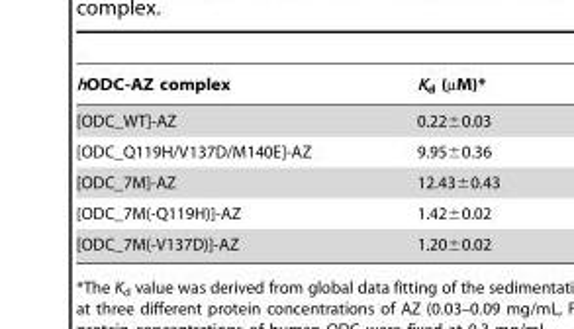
<table><thead><tr><td>hODC-AZ complex</td><td>K<sub>d</sub> (µM)*</td></tr></thead><tbody><tr><td>[ODC_WT]-AZ</td><td>0.22±0.03</td></tr><tr><td>[ODC_Q119H/V137D/M140E]-AZ</td><td>9.95±0.36</td></tr><tr><td>[ODC_7M]-AZ</td><td>12.43±0.43</td></tr><tr><td>[ODC_7M(-Q119H)]-AZ</td><td>1.42±0.02</td></tr><tr><td>[ODC_7M(-V137D)]-AZ</td><td>1.20±0.02</td></tr></tbody></table>